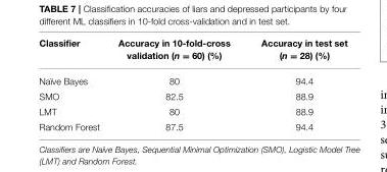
<table><thead><tr><td>Classifier</td><td>Accuracy in 10-fold-cross validation (n = 60) (%)</td><td>Accuracy in test set (n = 28) (%)</td></tr></thead><tbody><tr><td>Naïve Bayes</td><td>80</td><td>94.4</td></tr><tr><td>SMO</td><td>82.5</td><td>88.9</td></tr><tr><td>LMT</td><td>80</td><td>88.9</td></tr><tr><td>Random Forest</td><td>87.5</td><td>94.4</td></tr></tbody></table>